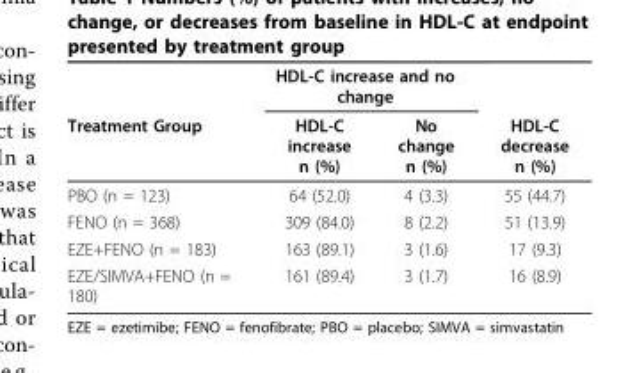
<table><thead><tr><td rowspan="2">Treatment Group</td><td colspan="2">HDL-C increase and no change</td><td rowspan="2">HDL-C decrease n (%)</td></tr><tr><td>HDL-C increase n (%)</td><td>No change n (%)</td></tr></thead><tbody><tr><td>PBO (n = 123)</td><td>64 (52.0)</td><td>4 (3.3)</td><td>55 (44.7)</td></tr><tr><td>FENO (n = 368)</td><td>309 (84.0)</td><td>8 (2.2)</td><td>51 (13.9)</td></tr><tr><td>EZE+FENO (n = 183)</td><td>163 (89.1)</td><td>3 (1.6)</td><td>17 (9.3)</td></tr><tr><td>EZE/SIMVA+FENO (n = 180)</td><td>161 (89.4)</td><td>3 (1.7)</td><td>16 (8.9)</td></tr></tbody></table>